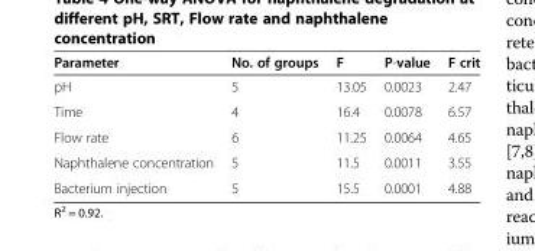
<table><thead><tr><td>Parameter</td><td>No. of groups</td><td>F</td><td>P-value</td><td>F crit</td></tr></thead><tbody><tr><td>pH</td><td>5</td><td>13.05</td><td>0.0023</td><td>2.47</td></tr><tr><td>Time</td><td>4</td><td>16.4</td><td>0.0078</td><td>6.57</td></tr><tr><td>Flow rate</td><td>6</td><td>11.25</td><td>0.0064</td><td>4.65</td></tr><tr><td>Naphthalene concentration</td><td>5</td><td>11.5</td><td>0.0011</td><td>3.55</td></tr><tr><td>Bacterium injection</td><td>5</td><td>15.5</td><td>0.0001</td><td>4.88</td></tr></tbody></table>